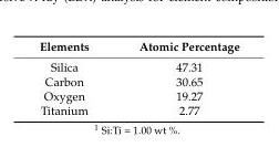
<table><thead><tr><td>Elements</td><td>Atomic Percentage</td></tr></thead><tbody><tr><td>Silica</td><td>47.31</td></tr><tr><td>Carbon</td><td>30.65</td></tr><tr><td>Oxygen</td><td>19.27</td></tr><tr><td>Titanium</td><td>2.77</td></tr></tbody></table>